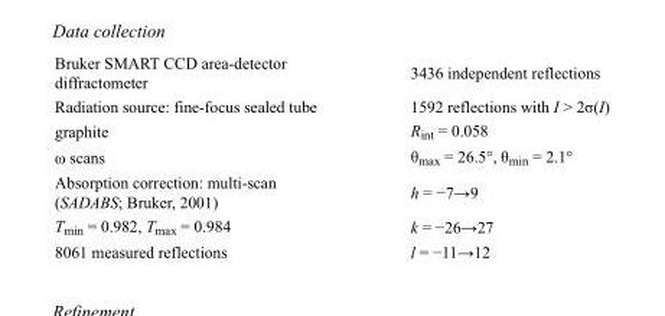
<table><tbody><tr><td>Bruker SMART CCD area-detector diffractometer</td><td>3436 independent reflections</td></tr><tr><td>Radiation source: fine-focus sealed tube</td><td>1592 reflections with I &gt; 2σ(I)</td></tr><tr><td>graphite</td><td>R<sub>int</sub> = 0.058</td></tr><tr><td>ω scans</td><td>θ<sub>max</sub> = 26.5°, θ<sub>min</sub> = 2.1°</td></tr><tr><td>Absorption correction: multi-scan (SADABS; Bruker, 2001)</td><td>h = −7→9</td></tr><tr><td>T<sub>min</sub> = 0.982, T<sub>max</sub> = 0.984</td><td>k = −26→27</td></tr><tr><td>8061 measured reflections</td><td>l = −11→12</td></tr></tbody></table>